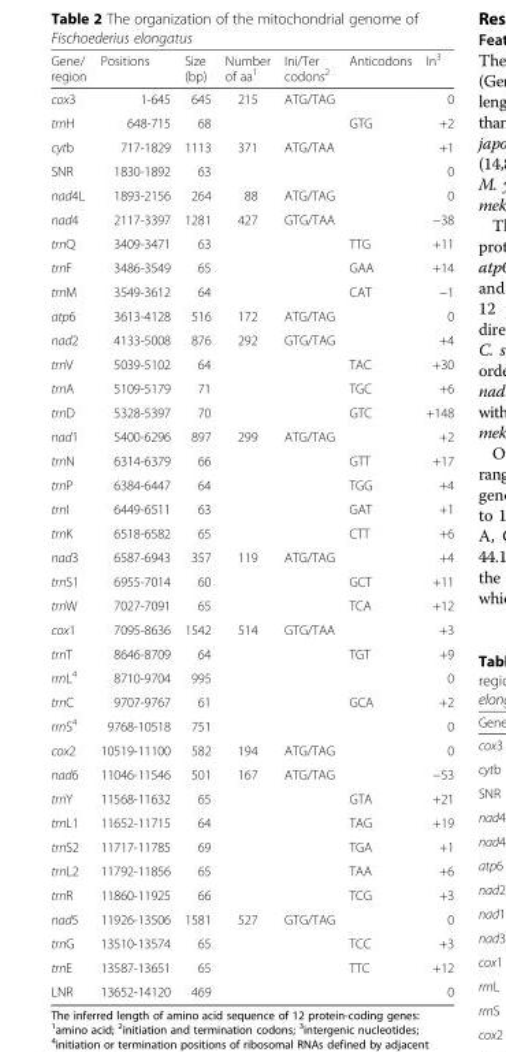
<table><thead><tr><td>Gene/ region</td><td>Positions</td><td>Size (bp)</td><td>Number of aa<sup>1</sup></td><td>Ini/Ter codons<sup>2</sup></td><td>Anticodons</td><td>In<sup>3</sup></td></tr></thead><tbody><tr><td>cox3</td><td>1-645</td><td>645</td><td>215</td><td>ATG/TAG</td><td></td><td>0</td></tr><tr><td>trnH</td><td>648-715</td><td>68</td><td></td><td></td><td>GTG</td><td>+2</td></tr><tr><td>cytb</td><td>717-1829</td><td>1113</td><td>371</td><td>ATG/TAA</td><td></td><td>+1</td></tr><tr><td>SNR</td><td>1830-1892</td><td>63</td><td></td><td></td><td></td><td>0</td></tr><tr><td>nad4L</td><td>1893-2156</td><td>264</td><td>88</td><td>ATG/TAG</td><td></td><td>0</td></tr><tr><td>nad4</td><td>2117-3397</td><td>1281</td><td>427</td><td>GTG/TAA</td><td></td><td>−38</td></tr><tr><td>trnQ</td><td>3409-3471</td><td>63</td><td></td><td></td><td>TTG</td><td>+11</td></tr><tr><td>trnF</td><td>3486-3549</td><td>65</td><td></td><td></td><td>GAA</td><td>+14</td></tr><tr><td>trnM</td><td>3549-3612</td><td>64</td><td></td><td></td><td>CAT</td><td>−1</td></tr><tr><td>atp6</td><td>3613-4128</td><td>516</td><td>172</td><td>ATG/TAG</td><td></td><td>0</td></tr><tr><td>nad2</td><td>4133-5008</td><td>876</td><td>292</td><td>GTG/TAG</td><td></td><td>+4</td></tr><tr><td>trnV</td><td>5039-5102</td><td>64</td><td></td><td></td><td>TAC</td><td>+30</td></tr><tr><td>trnA</td><td>5109-5179</td><td>71</td><td></td><td></td><td>TGC</td><td>+6</td></tr><tr><td>trnD</td><td>5328-5397</td><td>70</td><td></td><td></td><td>GTC</td><td>+148</td></tr><tr><td>nad1</td><td>5400-6296</td><td>897</td><td>299</td><td>ATG/TAG</td><td></td><td>+2</td></tr><tr><td>trnN</td><td>6314-6379</td><td>66</td><td></td><td></td><td>GTT</td><td>+17</td></tr><tr><td>trnP</td><td>6384-6447</td><td>64</td><td></td><td></td><td>TGG</td><td>+4</td></tr><tr><td>trnI</td><td>6449-6511</td><td>63</td><td></td><td></td><td>GAT</td><td>+1</td></tr><tr><td>trnK</td><td>6518-6582</td><td>65</td><td></td><td></td><td>CTT</td><td>+6</td></tr><tr><td>nad3</td><td>6587-6943</td><td>357</td><td>119</td><td>ATG/TAG</td><td></td><td>+4</td></tr><tr><td>trnS1</td><td>6955-7014</td><td>60</td><td></td><td></td><td>GCT</td><td>+11</td></tr><tr><td>trnW</td><td>7027-7091</td><td>65</td><td></td><td></td><td>TCA</td><td>+12</td></tr><tr><td>cox1</td><td>7095-8636</td><td>1542</td><td>514</td><td>GTG/TAA</td><td></td><td>+3</td></tr><tr><td>trnT</td><td>8646-8709</td><td>64</td><td></td><td></td><td>TGT</td><td>+9</td></tr><tr><td>rrnL<sup>4</sup></td><td>8710-9704</td><td>995</td><td></td><td></td><td></td><td>0</td></tr><tr><td>trnC</td><td>9707-9767</td><td>61</td><td></td><td></td><td>GCA</td><td>+2</td></tr><tr><td>rrnS<sup>4</sup></td><td>9768-10518</td><td>751</td><td></td><td></td><td></td><td>0</td></tr><tr><td>cox2</td><td>10519-11100</td><td>582</td><td>194</td><td>ATG/TAG</td><td></td><td>0</td></tr><tr><td>nad6</td><td>11046-11546</td><td>501</td><td>167</td><td>ATG/TAG</td><td></td><td>−53</td></tr><tr><td>trnY</td><td>11568-11632</td><td>65</td><td></td><td></td><td>GTA</td><td>+21</td></tr><tr><td>trnL1</td><td>11652-11715</td><td>64</td><td></td><td></td><td>TAG</td><td>+19</td></tr><tr><td>trnS2</td><td>11717-11785</td><td>69</td><td></td><td></td><td>TGA</td><td>+1</td></tr><tr><td>trnL2</td><td>11792-11856</td><td>65</td><td></td><td></td><td>TAA</td><td>+6</td></tr><tr><td>trnR</td><td>11860-11925</td><td>66</td><td></td><td></td><td>TCG</td><td>+3</td></tr><tr><td>nad5</td><td>11926-13506</td><td>1581</td><td>527</td><td>GTG/TAG</td><td></td><td>0</td></tr><tr><td>trnG</td><td>13510-13574</td><td>65</td><td></td><td></td><td>TCC</td><td>+3</td></tr><tr><td>trnE</td><td>13587-13651</td><td>65</td><td></td><td></td><td>TTC</td><td>+12</td></tr><tr><td>LNR</td><td>13652-14120</td><td>469</td><td></td><td></td><td></td><td>0</td></tr></tbody></table>